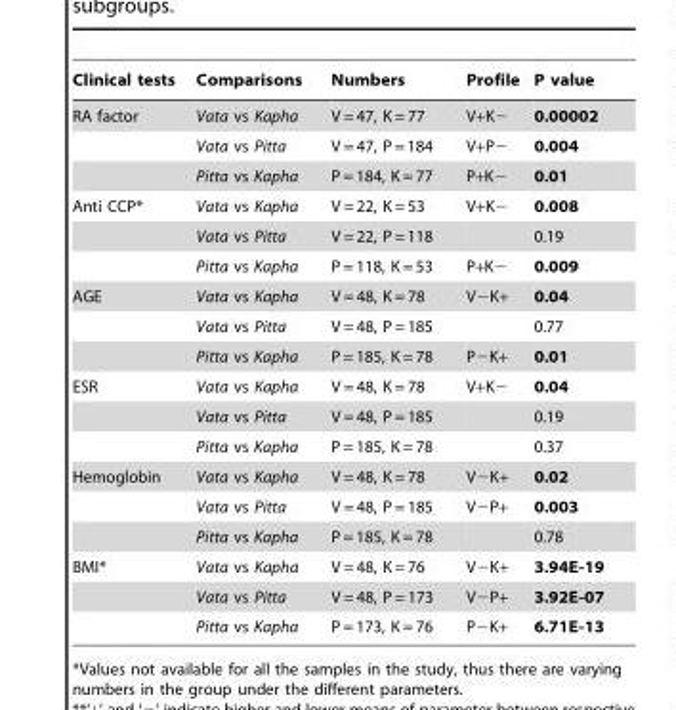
<table><thead><tr><td>Clinical tests</td><td>Comparisons</td><td>Numbers</td><td>Profile</td><td>P value</td></tr></thead><tbody><tr><td rowspan="3">RA factor</td><td>Vata vs Kapha</td><td>V = 47, K = 77</td><td>V+K−</td><td>0.00002</td></tr><tr><td>Vata vs Pitta</td><td>V = 47, P = 184</td><td>V+P−</td><td>0.004</td></tr><tr><td>Pitta vs Kapha</td><td>P = 184, K = 77</td><td>P+K−</td><td>0.01</td></tr><tr><td rowspan="3">Anti CCP*</td><td>Vata vs Kapha</td><td>V = 22, K = 53</td><td>V+K−</td><td>0.008</td></tr><tr><td>Vata vs Pitta</td><td>V = 22, P = 118</td><td></td><td>0.19</td></tr><tr><td>Pitta vs Kapha</td><td>P = 118, K = 53</td><td>P+K−</td><td>0.009</td></tr><tr><td rowspan="3">AGE</td><td>Vata vs Kapha</td><td>V = 48, K = 78</td><td>V−K+</td><td>0.04</td></tr><tr><td>Vata vs Pitta</td><td>V = 48, P = 185</td><td></td><td>0.77</td></tr><tr><td>Pitta vs Kapha</td><td>P = 185, K = 78</td><td>P−K+</td><td>0.01</td></tr><tr><td rowspan="3">ESR</td><td>Vata vs Kapha</td><td>V = 48, K = 78</td><td>V+K−</td><td>0.04</td></tr><tr><td>Vata vs Pitta</td><td>V = 48, P = 185</td><td></td><td>0.19</td></tr><tr><td>Pitta vs Kapha</td><td>P = 185, K = 78</td><td></td><td>0.37</td></tr><tr><td rowspan="3">Hemoglobin</td><td>Vata vs Kapha</td><td>V = 48, K = 78</td><td>V−K+</td><td>0.02</td></tr><tr><td>Vata vs Pitta</td><td>V = 48, P = 185</td><td>V−P+</td><td>0.003</td></tr><tr><td>Pitta vs Kapha</td><td>P = 185, K = 78</td><td></td><td>0.78</td></tr><tr><td rowspan="3">BMI*</td><td>Vata vs Kapha</td><td>V = 48, K = 76</td><td>V−K+</td><td>3.94E-19</td></tr><tr><td>Vata vs Pitta</td><td>V = 48, P = 173</td><td>V−P+</td><td>3.92E-07</td></tr><tr><td>Pitta vs Kapha</td><td>P = 173, K = 76</td><td>P−K+</td><td>6.71E-13</td></tr></tbody></table>